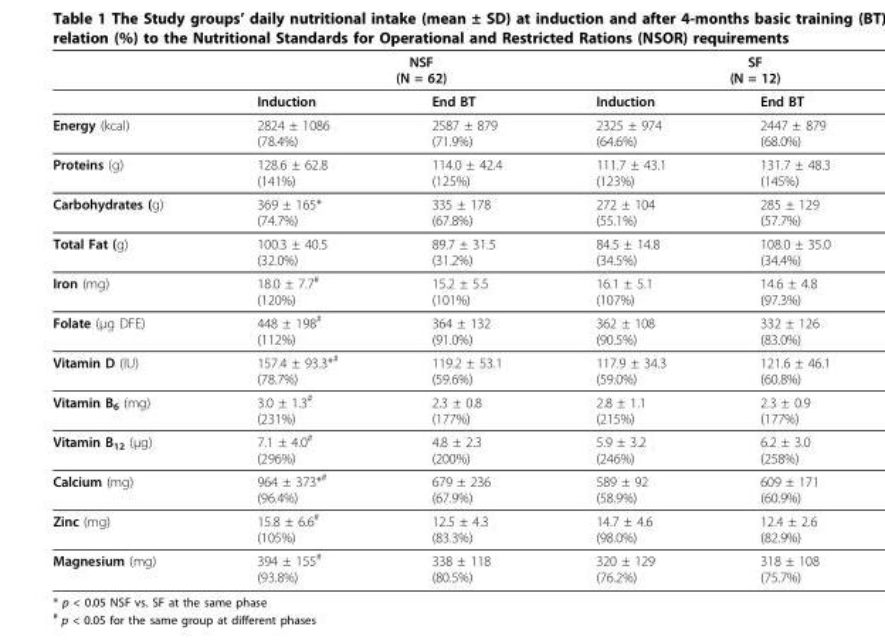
<table><thead><tr><td rowspan="2"></td><td colspan="2">NSF (N = 62)</td><td colspan="2">SF (N = 12)</td></tr><tr><td>Induction</td><td>End BT</td><td>Induction</td><td>End BT</td></tr></thead><tbody><tr><td>Energy (kcal)</td><td>2824 ± 1086 (78.4%)</td><td>2587 ± 879 (71.9%)</td><td>2325 ± 974 (64.6%)</td><td>2447 ± 879 (68.0%)</td></tr><tr><td>Proteins (g)</td><td>128.6 ± 62.8 (141%)</td><td>114.0 ± 42.4 (125%)</td><td>111.7 ± 43.1 (123%)</td><td>131.7 ± 48.3 (145%)</td></tr><tr><td>Carbohydrates (g)</td><td>369 ± 165* (74.7%)</td><td>335 ± 178 (67.8%)</td><td>272 ± 104 (55.1%)</td><td>285 ± 129 (57.7%)</td></tr><tr><td>Total Fat (g)</td><td>100.3 ± 40.5 (32.0%)</td><td>89.7 ± 31.5 (31.2%)</td><td>84.5 ± 14.8 (34.5%)</td><td>108.0 ± 35.0 (34.4%)</td></tr><tr><td>Iron (mg)</td><td>18.0 ± 7.7<sup>#</sup> (120%)</td><td>15.2 ± 5.5 (101%)</td><td>16.1 ± 5.1 (107%)</td><td>14.6 ± 4.8 (97.3%)</td></tr><tr><td>Folate (μg DFE)</td><td>448 ± 198<sup>#</sup> (112%)</td><td>364 ± 132 (91.0%)</td><td>362 ± 108 (90.5%)</td><td>332 ± 126 (83.0%)</td></tr><tr><td>Vitamin D (IU)</td><td>157.4 ± 93.3*<sup>#</sup> (78.7%)</td><td>119.2 ± 53.1 (59.6%)</td><td>117.9 ± 34.3 (59.0%)</td><td>121.6 ± 46.1 (60.8%)</td></tr><tr><td>Vitamin B<sub>6</sub> (mg)</td><td>3.0 ± 1.3<sup>#</sup> (231%)</td><td>2.3 ± 0.8 (177%)</td><td>2.8 ± 1.1 (215%)</td><td>2.3 ± 0.9 (177%)</td></tr><tr><td>Vitamin B<sub>12</sub> (μg)</td><td>7.1 ± 4.0<sup>#</sup> (296%)</td><td>4.8 ± 2.3 (200%)</td><td>5.9 ± 3.2 (246%)</td><td>6.2 ± 3.0 (258%)</td></tr><tr><td>Calcium (mg)</td><td>964 ± 373*<sup>#</sup> (96.4%)</td><td>679 ± 236 (67.9%)</td><td>589 ± 92 (58.9%)</td><td>609 ± 171 (60.9%)</td></tr><tr><td>Zinc (mg)</td><td>15.8 ± 6.6<sup>#</sup> (105%)</td><td>12.5 ± 4.3 (83.3%)</td><td>14.7 ± 4.6 (98.0%)</td><td>12.4 ± 2.6 (82.9%)</td></tr><tr><td>Magnesium (mg)</td><td>394 ± 155<sup>#</sup> (93.8%)</td><td>338 ± 118 (80.5%)</td><td>320 ± 129 (76.2%)</td><td>318 ± 108 (75.7%)</td></tr></tbody></table>